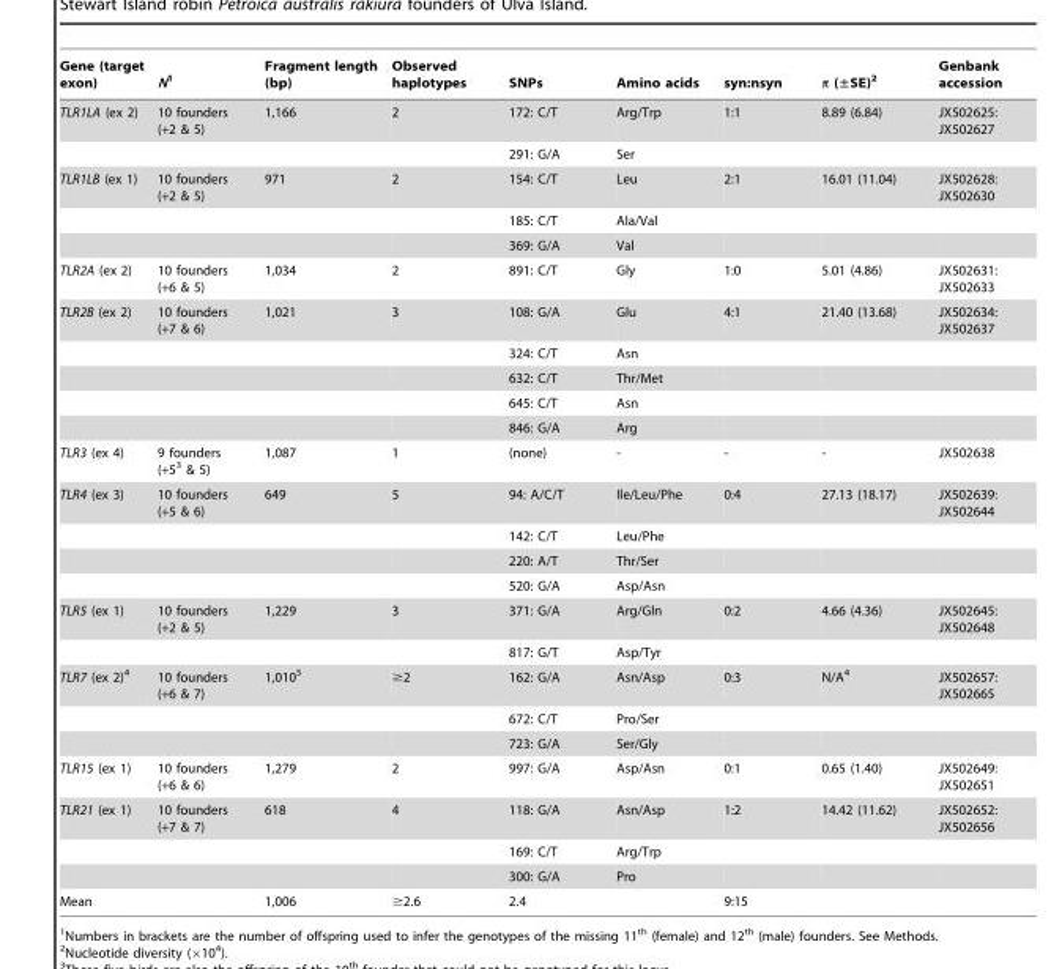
<table><thead><tr><td>Gene (target exon)</td><td>N1</td><td>Fragment length (bp)</td><td>Observed haplotypes</td><td>SNPs</td><td>Amino acids</td><td>syn:nsyn</td><td>π (±SE)<sup>2</sup></td><td>Genbank accession</td></tr></thead><tbody><tr><td rowspan="2">TLR1LA (ex 2)</td><td>10 founders (+2 &amp; 5)</td><td>1,166</td><td>2</td><td>172: C/T</td><td>Arg/Trp</td><td>1:1</td><td>8.89 (6.84)</td><td>JX502625: JX502627</td></tr><tr><td></td><td></td><td></td><td>291: G/A</td><td>Ser</td><td></td><td></td><td></td></tr><tr><td rowspan="3">TLR1LB (ex 1)</td><td>10 founders (+2 &amp; 5)</td><td>971</td><td>2</td><td>154: C/T</td><td>Leu</td><td>2:1</td><td>16.01 (11.04)</td><td>JX502628: JX502630</td></tr><tr><td></td><td></td><td></td><td>185: C/T</td><td>Ala/Val</td><td></td><td></td><td></td></tr><tr><td></td><td></td><td></td><td>369: G/A</td><td>Val</td><td></td><td></td><td></td></tr><tr><td>TLR2A (ex 2)</td><td>10 founders (+6 &amp; 5)</td><td>1,034</td><td>2</td><td>891: C/T</td><td>Gly</td><td>1:0</td><td>5.01 (4.86)</td><td>JX502631: JX502633</td></tr><tr><td rowspan="5">TLR2B (ex 2)</td><td>10 founders (+7 &amp; 6)</td><td>1,021</td><td>3</td><td>108: G/A</td><td>Glu</td><td>4:1</td><td>21.40 (13.68)</td><td>JX502634: JX502637</td></tr><tr><td></td><td></td><td></td><td>324: C/T</td><td>Asn</td><td></td><td></td><td></td></tr><tr><td></td><td></td><td></td><td>632: C/T</td><td>Thr/Met</td><td></td><td></td><td></td></tr><tr><td></td><td></td><td></td><td>645: C/T</td><td>Asn</td><td></td><td></td><td></td></tr><tr><td></td><td></td><td></td><td>846: G/A</td><td>Arg</td><td></td><td></td><td></td></tr><tr><td>TLR3 (ex 4)</td><td>9 founders (+5<sup>3</sup> &amp; 5)</td><td>1,087</td><td>1</td><td>(none)</td><td>-</td><td>-</td><td>-</td><td>JX502638</td></tr><tr><td rowspan="4">TLR4 (ex 3)</td><td>10 founders (+5 &amp; 6)</td><td>649</td><td>5</td><td>94: A/C/T</td><td>Ile/Leu/Phe</td><td>0:4</td><td>27.13 (18.17)</td><td>JX502639: JX502644</td></tr><tr><td></td><td></td><td></td><td>142: C/T</td><td>Leu/Phe</td><td></td><td></td><td></td></tr><tr><td></td><td></td><td></td><td>220: A/T</td><td>Thr/Ser</td><td></td><td></td><td></td></tr><tr><td></td><td></td><td></td><td>520: G/A</td><td>Asp/Asn</td><td></td><td></td><td></td></tr><tr><td rowspan="2">TLR5 (ex 1)</td><td>10 founders (+2 &amp; 5)</td><td>1,229</td><td>3</td><td>371: G/A</td><td>Arg/Gln</td><td>0:2</td><td>4.66 (4.36)</td><td>JX502645: JX502648</td></tr><tr><td></td><td></td><td></td><td>817: G/T</td><td>Asp/Tyr</td><td></td><td></td><td></td></tr><tr><td rowspan="3">TLR7 (ex 2)<sup>4</sup></td><td>10 founders (+6 &amp; 7)</td><td>1,010<sup>5</sup></td><td>≥2</td><td>162: G/A</td><td>Asn/Asp</td><td>0:3</td><td>N/A<sup>4</sup></td><td>JX502657: JX502665</td></tr><tr><td></td><td></td><td></td><td>672: C/T</td><td>Pro/Ser</td><td></td><td></td><td></td></tr><tr><td></td><td></td><td></td><td>723: G/A</td><td>Ser/Gly</td><td></td><td></td><td></td></tr><tr><td>TLR15 (ex 1)</td><td>10 founders (+6 &amp; 6)</td><td>1,279</td><td>2</td><td>997: G/A</td><td>Asp/Asn</td><td>0:1</td><td>0.65 (1.40)</td><td>JX502649: JX502651</td></tr><tr><td rowspan="3">TLR21 (ex 1)</td><td>10 founders (+7 &amp; 7)</td><td>618</td><td>4</td><td>118: G/A</td><td>Asn/Asp</td><td>1:2</td><td>14.42 (11.62)</td><td>JX502652: JX502656</td></tr><tr><td></td><td></td><td></td><td>169: C/T</td><td>Arg/Trp</td><td></td><td></td><td></td></tr><tr><td></td><td></td><td></td><td>300: G/A</td><td>Pro</td><td></td><td></td><td></td></tr><tr><td>Mean</td><td></td><td>1,006</td><td>≥2.6</td><td>2.4</td><td></td><td>9:15</td><td></td><td></td></tr></tbody></table>